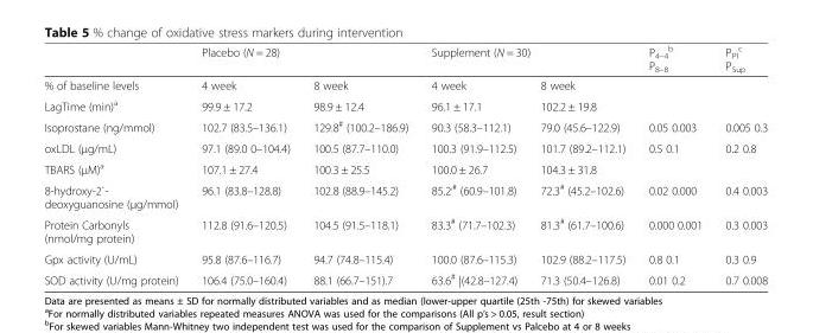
<table><thead><tr><td rowspan="2">% of baseline levels</td><td colspan="2">Placebo (N = 28)</td><td colspan="2">Supplement (N = 30)</td><td rowspan="2">P<sub>4–4</sub> <sup>b</sup> P<sub>8–8</sub></td><td rowspan="2">P<sub>Pl</sub> <sup>c</sup> P<sub>Sup</sub></td></tr><tr><td>4 week</td><td>8 week</td><td>4 week</td><td>8 week</td></tr></thead><tbody><tr><td>LagTime (min)<sup>a</sup></td><td>99.9 ± 17.2</td><td>98.9 ± 12.4</td><td>96.1 ± 17.1</td><td>102.2 ± 19.8</td><td></td><td></td></tr><tr><td>Isoprostane (ng/mmol)</td><td>102.7 (83.5–136.1)</td><td>129.8<sup>#</sup> (100.2–186.9)</td><td>90.3 (58.3–112.1)</td><td>79.0 (45.6–122.9)</td><td>0.05 0.003</td><td>0.005 0.3</td></tr><tr><td>oxLDL (μg/mL)</td><td>97.1 (89.0 0–104.4)</td><td>100.5 (87.7–110.0)</td><td>100.3 (91.9–112.5)</td><td>101.7 (89.2–112.1)</td><td>0.5 0.1</td><td>0.2 0.8</td></tr><tr><td>TBARS (μΜ)<sup>a</sup></td><td>107.1 ± 27.4</td><td>100.3 ± 25.5</td><td>100.0 ± 26.7</td><td>104.3 ± 31.8</td><td></td><td></td></tr><tr><td>8-hydroxy-2΄- deoxyguanosine (μg/mmol)</td><td>96.1 (83.8–128.8)</td><td>102.8 (88.9–145.2)</td><td>85.2<sup>,#</sup> (60.9–101.8)</td><td>72.3<sup>#</sup> (45.2–102.6)</td><td>0.02 0.000</td><td>0.4 0.003</td></tr><tr><td>Protein Carbonyls (nmol/mg protein)</td><td>112.8 (91.6–120.5)</td><td>104.5 (91.5–118.1)</td><td>83.3<sup>#</sup> (71.7–102.3)</td><td>81.3<sup>#</sup> (61.7–100.6)</td><td>0.000 0.001</td><td>0.3 0.003</td></tr><tr><td>Gpx activity (U/mL)</td><td>95.8 (87.6–116.7)</td><td>94.7 (74.8–115.4)</td><td>100.0 (87.6–115.3)</td><td>102.9 (88.2–117.5)</td><td>0.8 0.1</td><td>0.3 0.9</td></tr><tr><td>SOD activity (U/mg protein)</td><td>106.4 (75.0–160.4)</td><td>88.1 (66.7–151).7</td><td>63.6<sup>#</sup> |(42.8–127.4)</td><td>71.3 (50.4–126.8)</td><td>0.01 0.2</td><td>0.7 0.008</td></tr></tbody></table>